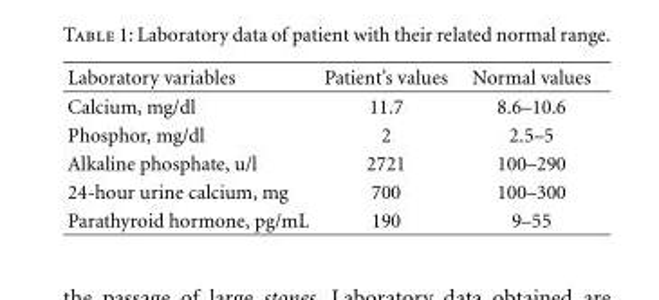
<table><thead><tr><td>Laboratory variables</td><td>Patient’s values</td><td>Normal values</td></tr></thead><tbody><tr><td>Calcium, mg/dl</td><td>11.7</td><td>8.6–10.6</td></tr><tr><td>Phosphor, mg/dl</td><td>2</td><td>2.5–5</td></tr><tr><td>Alkaline phosphate, u/l</td><td>2721</td><td>100–290</td></tr><tr><td>24-hour urine calcium, mg</td><td>700</td><td>100–300</td></tr><tr><td>Parathyroid hormone, pg/mL</td><td>190</td><td>9–55</td></tr></tbody></table>